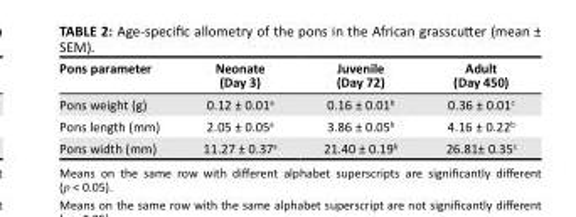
<table><thead><tr><td>Pons parameter</td><td>Neonate (Day 3)</td><td>Juvenile (Day 72)</td><td>Adult (Day 450)</td></tr></thead><tbody><tr><td>Pons weight (g)</td><td>0.12 ± 0.01<sup>a</sup></td><td>0.16 ± 0.01<sup>b</sup></td><td>0.36 ± 0.01<sup>c</sup></td></tr><tr><td>Pons length (mm)</td><td>2.05 ± 0.05<sup>a</sup></td><td>3.86 ± 0.05<sup>b</sup></td><td>4.16 ± 0.22<sup>b</sup></td></tr><tr><td>Pons width (mm)</td><td>11.27 ± 0.37<sup>a</sup></td><td>21.40 ± 0.19<sup>b</sup></td><td>26.81± 0.35<sup>c</sup></td></tr></tbody></table>